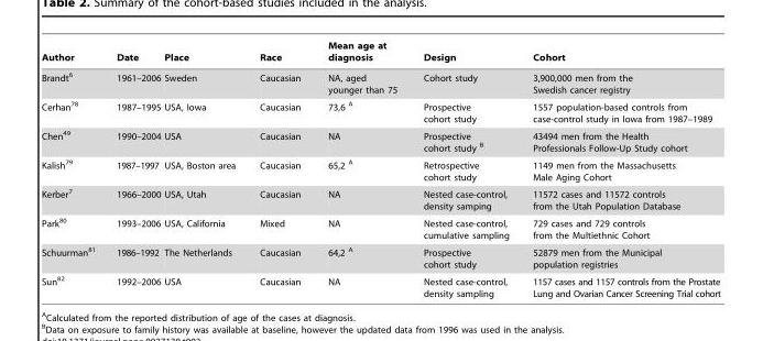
<table><thead><tr><td>Author</td><td>Date</td><td>Place</td><td>Race</td><td>Mean age at diagnosis</td><td>Design</td><td>Cohort</td></tr></thead><tbody><tr><td>Brandt<sup>6</sup></td><td>1961–2006</td><td>Sweden</td><td>Caucasian</td><td>NA, aged younger than 75</td><td>Cohort study</td><td>3,900,000 men from the Swedish cancer registry</td></tr><tr><td>Cerhan<sup>78</sup></td><td>1987–1995</td><td>USA, Iowa</td><td>Caucasian</td><td>73,6 A</td><td>Prospective cohort study</td><td>1557 population-based controls from case-control study in Iowa from 1987–1989</td></tr><tr><td>Chen<sup>49</sup></td><td>1990–2004</td><td>USA</td><td>Caucasian</td><td>NA</td><td>Prospective cohort study B</td><td>43494 men from the Health Professionals Follow-Up Study cohort</td></tr><tr><td>Kalish<sup>79</sup></td><td>1987–1997</td><td>USA, Boston area</td><td>Caucasian</td><td>65,2 A</td><td>Retrospective cohort study</td><td>1149 men from the Massachusetts Male Aging Cohort</td></tr><tr><td>Kerber<sup>7</sup></td><td>1966–2000</td><td>USA, Utah</td><td>Caucasian</td><td>NA</td><td>Nested case-control, density samping</td><td>11572 cases and 11572 controls from the Utah Population Database</td></tr><tr><td>Park<sup>80</sup></td><td>1993–2006</td><td>USA, California</td><td>Mixed</td><td>NA</td><td>Nested case-control, cumulative sampling</td><td>729 cases and 729 controls from the Multiethnic Cohort</td></tr><tr><td>Schuurman<sup>81</sup></td><td>1986–1992</td><td>The Netherlands</td><td>Caucasian</td><td>64,2 A</td><td>Prospective cohort study</td><td>52879 men from the Municipal population registries</td></tr><tr><td>Sun<sup>82</sup></td><td>1992–2006</td><td>USA</td><td>Caucasian</td><td>NA</td><td>Nested case-control, density sampling</td><td>1157 cases and 1157 controls from the Prostate Lung and Ovarian Cancer Screening Trial cohort</td></tr></tbody></table>